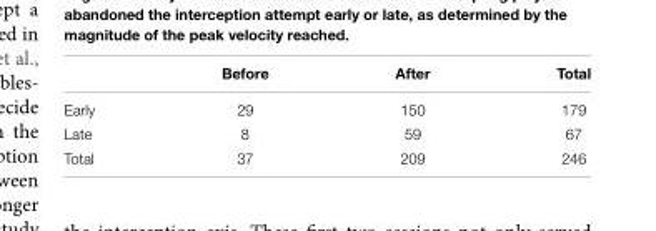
<table><thead><tr><td></td><td>Before</td><td>After</td><td>Total</td></tr></thead><tbody><tr><td>Early</td><td>29</td><td>150</td><td>179</td></tr><tr><td>Late</td><td>8</td><td>59</td><td>67</td></tr><tr><td>Total</td><td>37</td><td>209</td><td>246</td></tr></tbody></table>